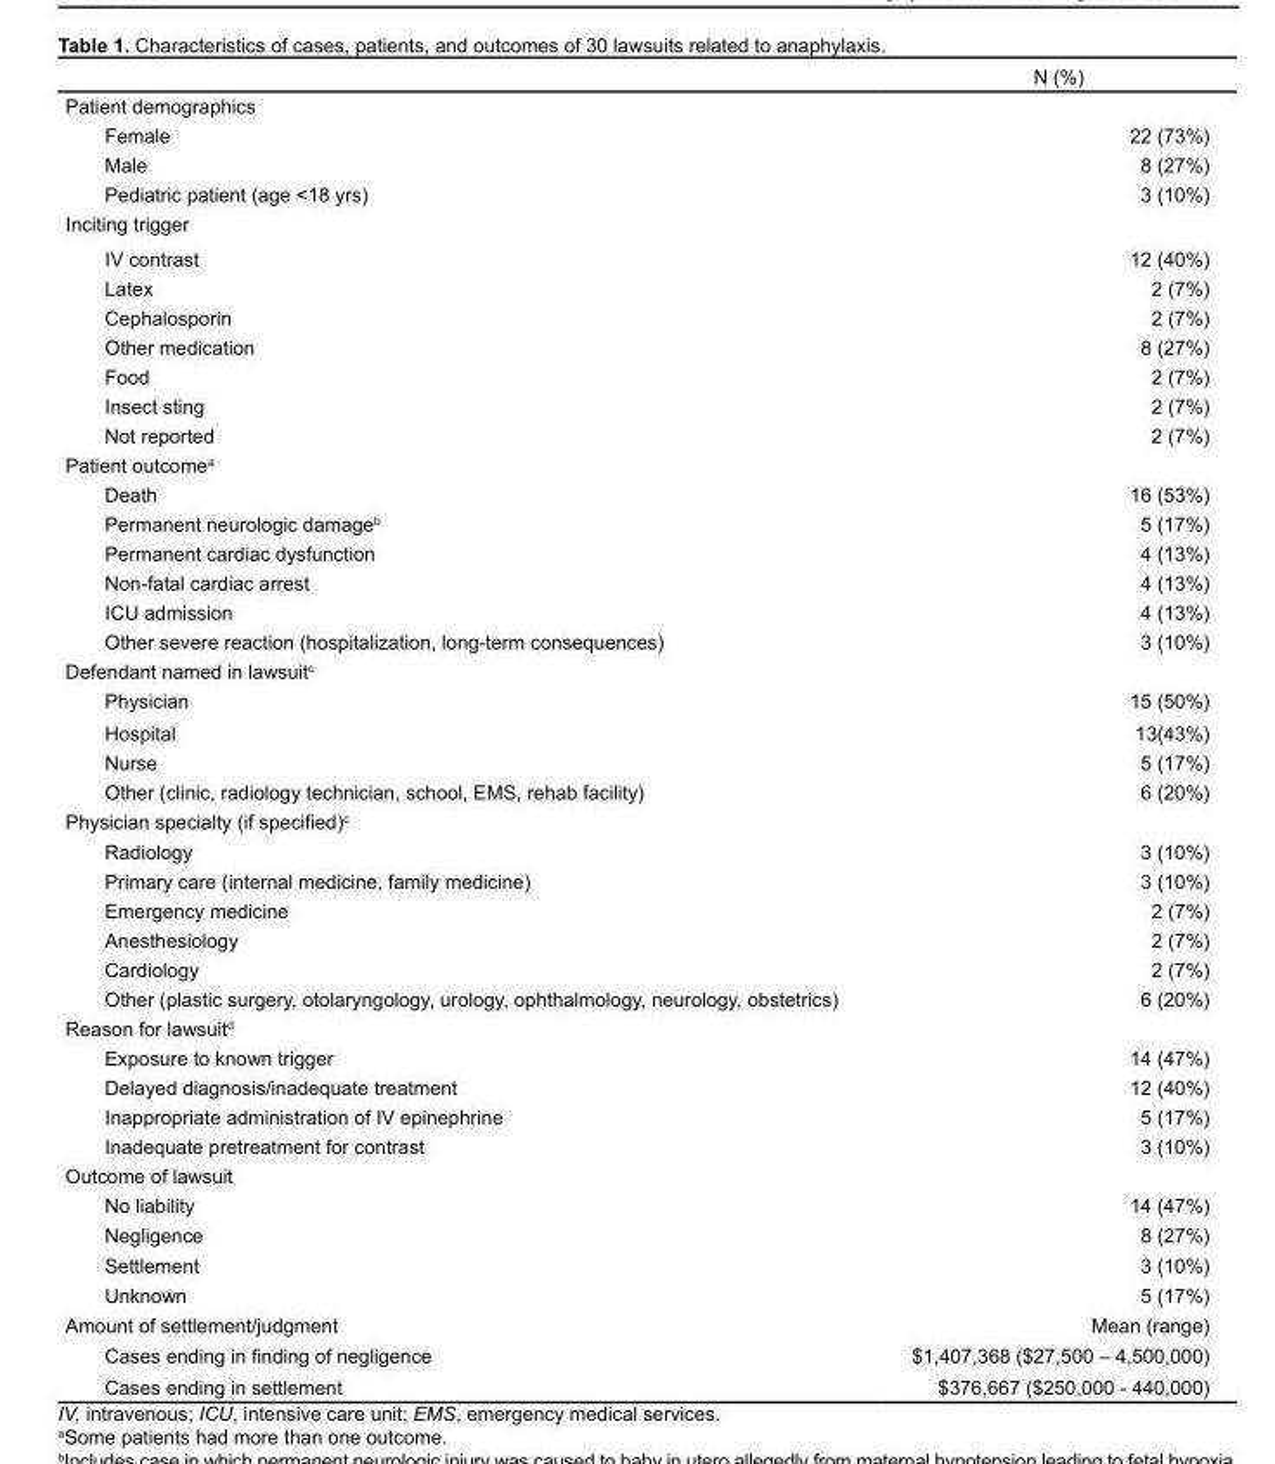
<table><thead><tr><td></td><td>N (%)</td></tr></thead><tbody><tr><td colspan="2">Patient demographics</td></tr><tr><td>Female</td><td>22 (73%)</td></tr><tr><td>Male</td><td>8 (27%)</td></tr><tr><td>Pediatric patient (age &lt;18 yrs)</td><td>3 (10%)</td></tr><tr><td colspan="2">Inciting trigger</td></tr><tr><td>IV contrast</td><td>12 (40%)</td></tr><tr><td>Latex</td><td>2 (7%)</td></tr><tr><td>Cephalosporin</td><td>2 (7%)</td></tr><tr><td>Other medication</td><td>8 (27%)</td></tr><tr><td>Food</td><td>2 (7%)</td></tr><tr><td>Insect sting</td><td>2 (7%)</td></tr><tr><td>Not reported</td><td>2 (7%)</td></tr><tr><td colspan="2">Patient outcome<sup>a</sup></td></tr><tr><td>Death</td><td>16 (53%)</td></tr><tr><td>Permanent neurologic damage<sup>b</sup></td><td>5 (17%)</td></tr><tr><td>Permanent cardiac dysfunction</td><td>4 (13%)</td></tr><tr><td>Non-fatal cardiac arrest</td><td>4 (13%)</td></tr><tr><td>ICU admission</td><td>4 (13%)</td></tr><tr><td>Other severe reaction (hospitalization, long-term consequences)</td><td>3 (10%)</td></tr><tr><td colspan="2">Defendant named in lawsuit<sup>c</sup></td></tr><tr><td>Physician</td><td>15 (50%)</td></tr><tr><td>Hospital</td><td>13(43%)</td></tr><tr><td>Nurse</td><td>5 (17%)</td></tr><tr><td>Other (clinic, radiology technician, school, EMS, rehab facility)</td><td>6 (20%)</td></tr><tr><td colspan="2">Physician specialty (if specified)<sup>c</sup></td></tr><tr><td>Radiology</td><td>3 (10%)</td></tr><tr><td>Primary care (internal medicine, family medicine)</td><td>3 (10%)</td></tr><tr><td>Emergency medicine</td><td>2 (7%)</td></tr><tr><td>Anesthesiology</td><td>2 (7%)</td></tr><tr><td>Cardiology</td><td>2 (7%)</td></tr><tr><td>Other (plastic surgery, otolaryngology, urology, ophthalmology, neurology, obstetrics)</td><td>6 (20%)</td></tr><tr><td colspan="2">Reason for lawsuit<sup>d</sup></td></tr><tr><td>Exposure to known trigger</td><td>14 (47%)</td></tr><tr><td>Delayed diagnosis/inadequate treatment</td><td>12 (40%)</td></tr><tr><td>Inappropriate administration of IV epinephrine</td><td>5 (17%)</td></tr><tr><td>Inadequate pretreatment for contrast</td><td>3 (10%)</td></tr><tr><td colspan="2">Outcome of lawsuit</td></tr><tr><td>No liability</td><td>14 (47%)</td></tr><tr><td>Negligence</td><td>8 (27%)</td></tr><tr><td>Settlement</td><td>3 (10%)</td></tr><tr><td>Unknown</td><td>5 (17%)</td></tr><tr><td>Amount of settlement/judgment</td><td>Mean (range)</td></tr><tr><td>Cases ending in finding of negligence</td><td>$1,407,368 ($27,500 – 4,500,000)</td></tr><tr><td>Cases ending in settlement</td><td>$376,667 ($250,000 - 440,000)</td></tr></tbody></table>